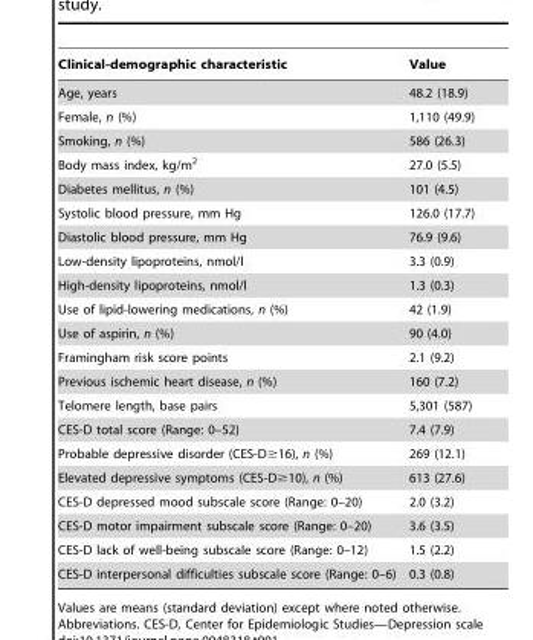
<table><thead><tr><td>Clinical-demographic characteristic</td><td>Value</td></tr></thead><tbody><tr><td>Age, years</td><td>48.2 (18.9)</td></tr><tr><td>Female, n (%)</td><td>1,110 (49.9)</td></tr><tr><td>Smoking, n (%)</td><td>586 (26.3)</td></tr><tr><td>Body mass index, kg/m<sup>2</sup></td><td>27.0 (5.5)</td></tr><tr><td>Diabetes mellitus, n (%)</td><td>101 (4.5)</td></tr><tr><td>Systolic blood pressure, mm Hg</td><td>126.0 (17.7)</td></tr><tr><td>Diastolic blood pressure, mm Hg</td><td>76.9 (9.6)</td></tr><tr><td>Low-density lipoproteins, nmol/l</td><td>3.3 (0.9)</td></tr><tr><td>High-density lipoproteins, nmol/l</td><td>1.3 (0.3)</td></tr><tr><td>Use of lipid-lowering medications, n (%)</td><td>42 (1.9)</td></tr><tr><td>Use of aspirin, n (%)</td><td>90 (4.0)</td></tr><tr><td>Framingham risk score points</td><td>2.1 (9.2)</td></tr><tr><td>Previous ischemic heart disease, n (%)</td><td>160 (7.2)</td></tr><tr><td>Telomere length, base pairs</td><td>5,301 (587)</td></tr><tr><td>CES-D total score (Range: 0–52)</td><td>7.4 (7.9)</td></tr><tr><td>Probable depressive disorder (CES-D≥16), n (%)</td><td>269 (12.1)</td></tr><tr><td>Elevated depressive symptoms (CES-D≥10), n (%)</td><td>613 (27.6)</td></tr><tr><td>CES-D depressed mood subscale score (Range: 0–20)</td><td>2.0 (3.2)</td></tr><tr><td>CES-D motor impairment subscale score (Range: 0–20)</td><td>3.6 (3.5)</td></tr><tr><td>CES-D lack of well-being subscale score (Range: 0–12)</td><td>1.5 (2.2)</td></tr><tr><td>CES-D interpersonal difficulties subscale score (Range: 0–6)</td><td>0.3 (0.8)</td></tr></tbody></table>